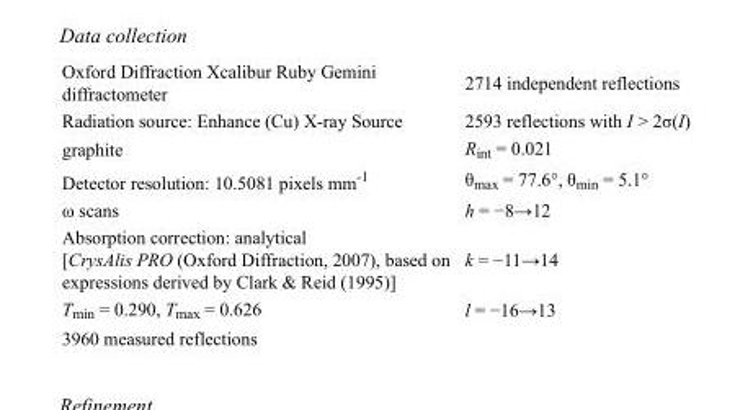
<table><tbody><tr><td>Oxford Diffraction Xcalibur Ruby Gemini diffractometer</td><td>2714 independent reflections</td></tr><tr><td>Radiation source: Enhance (Cu) X-ray Source</td><td>2593 reflections with I &gt; 2σ(I)</td></tr><tr><td>graphite</td><td>R<sub>int</sub> = 0.021</td></tr><tr><td>Detector resolution: 10.5081 pixels mm<sup>-1</sup></td><td>θ<sub>max</sub> = 77.6°, θ<sub>min</sub> = 5.1°</td></tr><tr><td>ω scans</td><td>h = −8→12</td></tr><tr><td>Absorption correction: analytical [CrysAlis PRO (Oxford Diffraction, 2007), based on expressions derived by Clark &amp; Reid (1995)]</td><td>k = −11→14</td></tr><tr><td>T<sub>min</sub> = 0.290, T<sub>max</sub> = 0.626</td><td>l = −16→13</td></tr><tr><td>3960 measured reflections</td><td></td></tr></tbody></table>